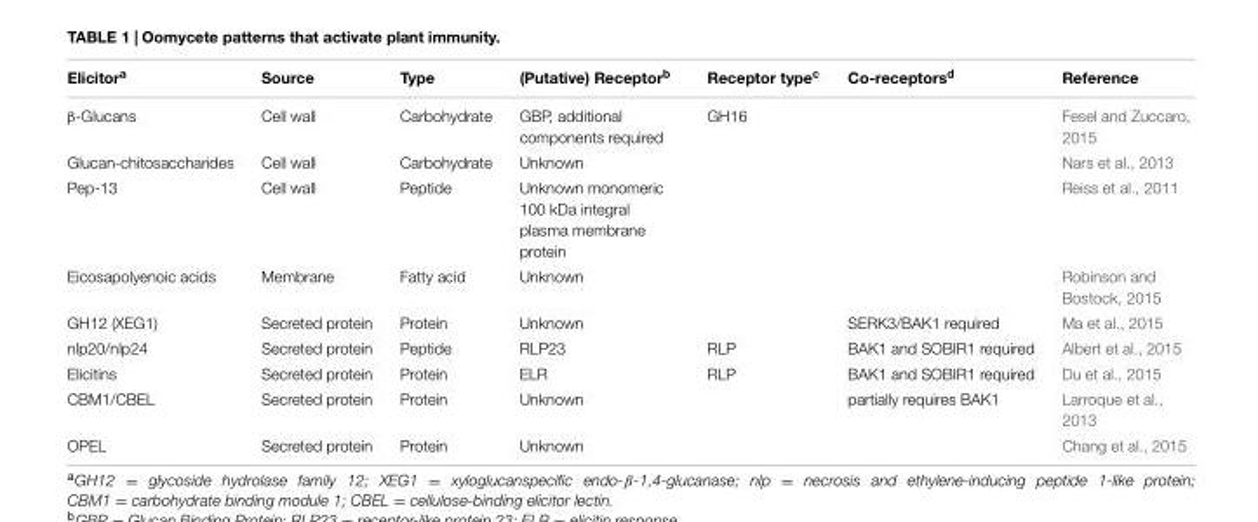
<table><thead><tr><td>Elicitor<sup>a</sup></td><td>Source</td><td>Type</td><td>(Putative) Receptor<sup>b</sup></td><td>Receptor type<sup>c</sup></td><td>Co-receptors<sup>d</sup></td><td>Reference</td></tr></thead><tbody><tr><td>β-Glucans</td><td>Cell wall</td><td>Carbohydrate</td><td>GBP, additional components required</td><td>GH16</td><td></td><td>Fesel and Zuccaro, 2015</td></tr><tr><td>Glucan-chitosaccharides</td><td>Cell wall</td><td>Carbohydrate</td><td>Unknown</td><td></td><td></td><td>Nars et al., 2013</td></tr><tr><td>Pep-13</td><td>Cell wall</td><td>Peptide</td><td>Unknown monomeric 100 kDa integral plasma membrane protein</td><td></td><td></td><td>Reiss et al., 2011</td></tr><tr><td>Eicosapolyenoic acids</td><td>Membrane</td><td>Fatty acid</td><td>Unknown</td><td></td><td></td><td>Robinson and Bostock, 2015</td></tr><tr><td>GH12 (XEG1)</td><td>Secreted protein</td><td>Protein</td><td>Unknown</td><td></td><td>SERK3/BAK1 required</td><td>Ma et al., 2015</td></tr><tr><td>nlp20/nlp24</td><td>Secreted protein</td><td>Peptide</td><td>RLP23</td><td>RLP</td><td>BAK1 and SOBIR1 required</td><td>Albert et al., 2015</td></tr><tr><td>Elicitins</td><td>Secreted protein</td><td>Protein</td><td>ELR</td><td>RLP</td><td>BAK1 and SOBIR1 required</td><td>Du et al., 2015</td></tr><tr><td>CBM1/CBEL</td><td>Secreted protein</td><td>Protein</td><td>Unknown</td><td></td><td>partially requires BAK1</td><td>Larroque et al., 2013</td></tr><tr><td>OPEL</td><td>Secreted protein</td><td>Protein</td><td>Unknown</td><td></td><td></td><td>Chang et al., 2015</td></tr></tbody></table>